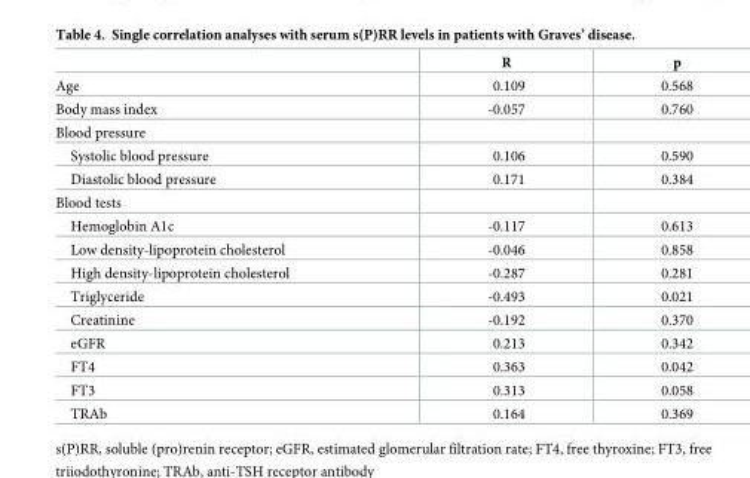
<table><thead><tr><td></td><td>R</td><td>p</td></tr></thead><tbody><tr><td>Age</td><td>0.109</td><td>0.568</td></tr><tr><td>Body mass index</td><td>-0.057</td><td>0.760</td></tr><tr><td colspan="3">Blood pressure</td></tr><tr><td>Systolic blood pressure</td><td>0.106</td><td>0.590</td></tr><tr><td>Diastolic blood pressure</td><td>0.171</td><td>0.384</td></tr><tr><td colspan="3">Blood tests</td></tr><tr><td>Hemoglobin A1c</td><td>-0.117</td><td>0.613</td></tr><tr><td>Low density-lipoprotein cholesterol</td><td>-0.046</td><td>0.858</td></tr><tr><td>High density-lipoprotein cholesterol</td><td>-0.287</td><td>0.281</td></tr><tr><td>Triglyceride</td><td>-0.493</td><td>0.021</td></tr><tr><td>Creatinine</td><td>-0.192</td><td>0.370</td></tr><tr><td>eGFR</td><td>0.213</td><td>0.342</td></tr><tr><td>FT4</td><td>0.363</td><td>0.042</td></tr><tr><td>FT3</td><td>0.313</td><td>0.058</td></tr><tr><td>TRAb</td><td>0.164</td><td>0.369</td></tr></tbody></table>